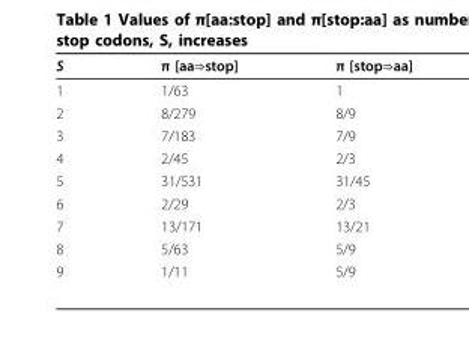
<table><thead><tr><td>S</td><td>π [aa⇒stop]</td><td>π [stop⇒aa]</td></tr></thead><tbody><tr><td>1</td><td>1/63</td><td>1</td></tr><tr><td>2</td><td>8/279</td><td>8/9</td></tr><tr><td>3</td><td>7/183</td><td>7/9</td></tr><tr><td>4</td><td>2/45</td><td>2/3</td></tr><tr><td>5</td><td>31/531</td><td>31/45</td></tr><tr><td>6</td><td>2/29</td><td>2/3</td></tr><tr><td>7</td><td>13/171</td><td>13/21</td></tr><tr><td>8</td><td>5/63</td><td>5/9</td></tr><tr><td>9</td><td>1/11</td><td>5/9</td></tr></tbody></table>